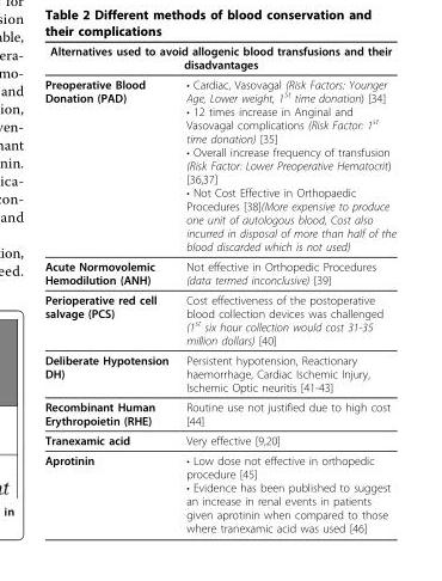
<table><thead><tr><td colspan="2">Alternatives used to avoid allogenic blood transfusions and their disadvantages</td></tr><tr><td>Preoperative Blood Donation (PAD)</td><td>• Cardiac, Vasovagal (Risk Factors: Younger Age, Lower weight, 1<sup>St</sup> time donation) [34] • 12 times increase in Anginal and Vasovagal complications (Risk Factor: 1<sup>st</sup> time donation) [35] • Overall increase frequency of transfusion (Risk Factor: Lower Preoperative Hematocrit) [36,37] • Not Cost Effective in Orthopaedic Procedures [38](More expensive to produce one unit of autologous blood, Cost also incurred in disposal of more than half of the blood discarded which is not used)</td></tr></thead><tbody><tr><td>Acute Normovolemic Hemodilution (ANH)</td><td>Not effective in Orthopedic Procedures (data termed inconclusive) [39]</td></tr><tr><td>Perioperative red cell salvage (PCS)</td><td>Cost effectiveness of the postoperative blood collection devices was challenged (1<sup>st</sup> six hour collection would cost 31-35 million dollars) [40]</td></tr><tr><td>Deliberate Hypotension DH)</td><td>Persistent hypotension, Reactionary haemorrhage, Cardiac Ischemic Injury, Ischemic Optic neuritis [41-43]</td></tr><tr><td>Recombinant Human Erythropoietin (RHE)</td><td>Routine use not justified due to high cost [44]</td></tr><tr><td>Tranexamic acid</td><td>Very effective [9,20]</td></tr><tr><td>Aprotinin</td><td>• Low dose not effective in orthopedic procedure [45] • Evidence has been published to suggest an increase in renal events in patients given aprotinin when compared to those where tranexamic acid was used [46]</td></tr></tbody></table>